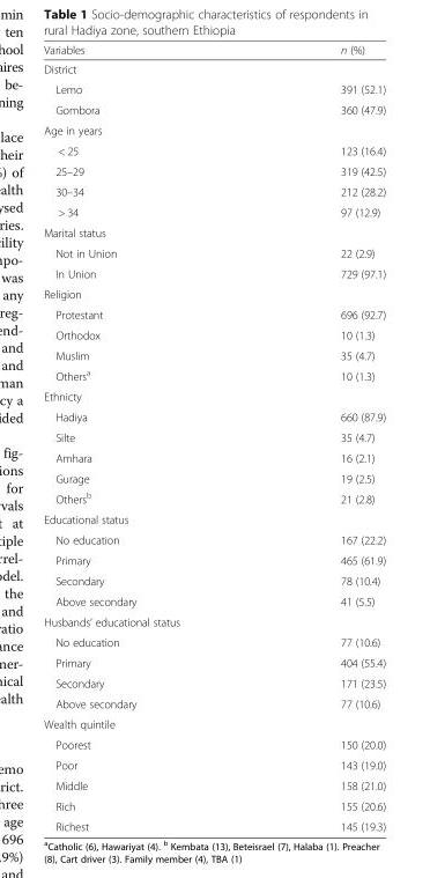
<table><thead><tr><td>Variables</td><td>n (%)</td></tr></thead><tbody><tr><td colspan="2">District</td></tr><tr><td>Lemo</td><td>391 (52.1)</td></tr><tr><td>Gombora</td><td>360 (47.9)</td></tr><tr><td colspan="2">Age in years</td></tr><tr><td>&lt; 25</td><td>123 (16.4)</td></tr><tr><td>25–29</td><td>319 (42.5)</td></tr><tr><td>30–34</td><td>212 (28.2)</td></tr><tr><td>&gt; 34</td><td>97 (12.9)</td></tr><tr><td colspan="2">Marital status</td></tr><tr><td>Not in Union</td><td>22 (2.9)</td></tr><tr><td>In Union</td><td>729 (97.1)</td></tr><tr><td colspan="2">Religion</td></tr><tr><td>Protestant</td><td>696 (92.7)</td></tr><tr><td>Orthodox</td><td>10 (1.3)</td></tr><tr><td>Muslim</td><td>35 (4.7)</td></tr><tr><td>Others<sup>a</sup></td><td>10 (1.3)</td></tr><tr><td colspan="2">Ethnicty</td></tr><tr><td>Hadiya</td><td>660 (87.9)</td></tr><tr><td>Silte</td><td>35 (4.7)</td></tr><tr><td>Amhara</td><td>16 (2.1)</td></tr><tr><td>Gurage</td><td>19 (2.5)</td></tr><tr><td>Others<sup>b</sup></td><td>21 (2.8)</td></tr><tr><td colspan="2">Educational status</td></tr><tr><td>No education</td><td>167 (22.2)</td></tr><tr><td>Primary</td><td>465 (61.9)</td></tr><tr><td>Secondary</td><td>78 (10.4)</td></tr><tr><td>Above secondary</td><td>41 (5.5)</td></tr><tr><td colspan="2">Husbands’ educational status</td></tr><tr><td>No education</td><td>77 (10.6)</td></tr><tr><td>Primary</td><td>404 (55.4)</td></tr><tr><td>Secondary</td><td>171 (23.5)</td></tr><tr><td>Above secondary</td><td>77 (10.6)</td></tr><tr><td colspan="2">Wealth quintile</td></tr><tr><td>Poorest</td><td>150 (20.0)</td></tr><tr><td>Poor</td><td>143 (19.0)</td></tr><tr><td>Middle</td><td>158 (21.0)</td></tr><tr><td>Rich</td><td>155 (20.6)</td></tr><tr><td>Richest</td><td>145 (19.3)</td></tr></tbody></table>